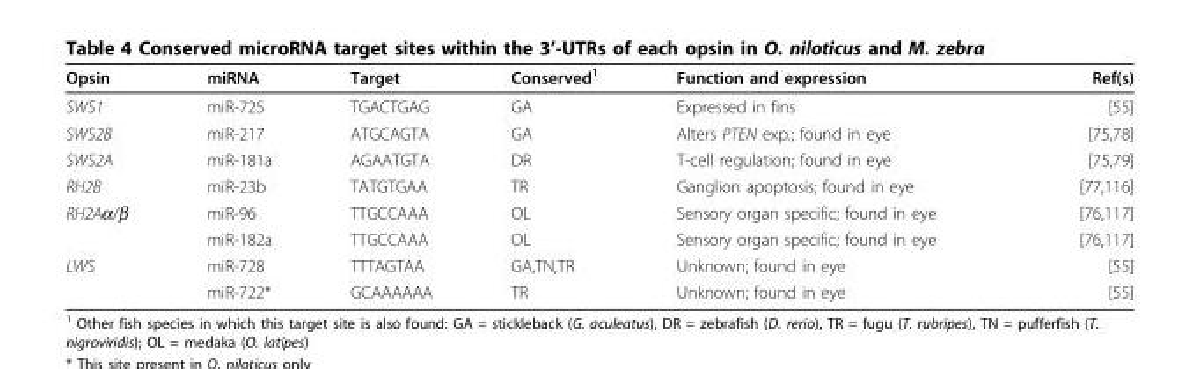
<table><thead><tr><td>Opsin</td><td>miRNA</td><td>Target</td><td>Conserved<sup>1</sup></td><td>Function and expression</td><td>Ref(s)</td></tr></thead><tbody><tr><td>SWS1</td><td>miR-725</td><td>TGACTGAG</td><td>GA</td><td>Expressed in fins</td><td>[55]</td></tr><tr><td>SWS2B</td><td>miR-217</td><td>ATGCAGTA</td><td>GA</td><td>Alters PTEN exp.; found in eye</td><td>[75,78]</td></tr><tr><td>SWS2A</td><td>miR-181a</td><td>AGAATGTA</td><td>DR</td><td>T-cell regulation; found in eye</td><td>[75,79]</td></tr><tr><td>RH2B</td><td>miR-23b</td><td>TATGTGAA</td><td>TR</td><td>Ganglion apoptosis; found in eye</td><td>[77,116]</td></tr><tr><td rowspan="2">RH2Aα/β</td><td>miR-96</td><td>TTGCCAAA</td><td>OL</td><td>Sensory organ specific; found in eye</td><td>[76,117]</td></tr><tr><td>miR-182a</td><td>TTGCCAAA</td><td>OL</td><td>Sensory organ specific; found in eye</td><td>[76,117]</td></tr><tr><td rowspan="2">LWS</td><td>miR-728</td><td>TTTAGTAA</td><td>GA,TN,TR</td><td>Unknown; found in eye</td><td>[55]</td></tr><tr><td>miR-722*</td><td>GCAAAAAA</td><td>TR</td><td>Unknown; found in eye</td><td>[55]</td></tr></tbody></table>